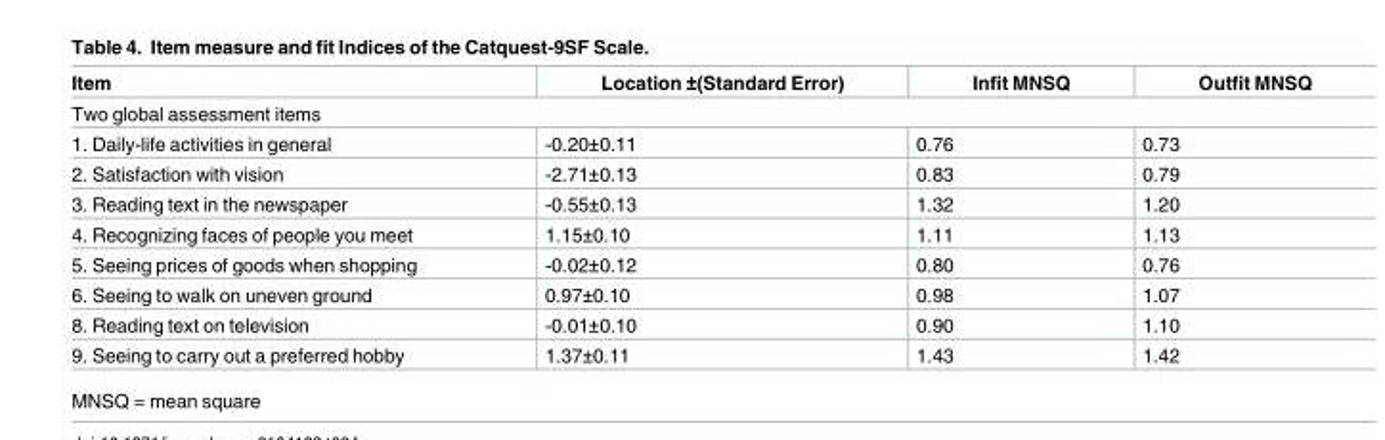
<table><thead><tr><td>Item</td><td>Location ±(Standard Error)</td><td>Infit MNSQ</td><td>Outfit MNSQ</td></tr></thead><tbody><tr><td colspan="4">Two global assessment items</td></tr><tr><td>1. Daily-life activities in general</td><td>-0.20±0.11</td><td>0.76</td><td>0.73</td></tr><tr><td>2. Satisfaction with vision</td><td>-2.71±0.13</td><td>0.83</td><td>0.79</td></tr><tr><td>3. Reading text in the newspaper</td><td>-0.55±0.13</td><td>1.32</td><td>1.20</td></tr><tr><td>4. Recognizing faces of people you meet</td><td>1.15±0.10</td><td>1.11</td><td>1.13</td></tr><tr><td>5. Seeing prices of goods when shopping</td><td>-0.02±0.12</td><td>0.80</td><td>0.76</td></tr><tr><td>6. Seeing to walk on uneven ground</td><td>0.97±0.10</td><td>0.98</td><td>1.07</td></tr><tr><td>8. Reading text on television</td><td>-0.01±0.10</td><td>0.90</td><td>1.10</td></tr><tr><td>9. Seeing to carry out a preferred hobby</td><td>1.37±0.11</td><td>1.43</td><td>1.42</td></tr></tbody></table>